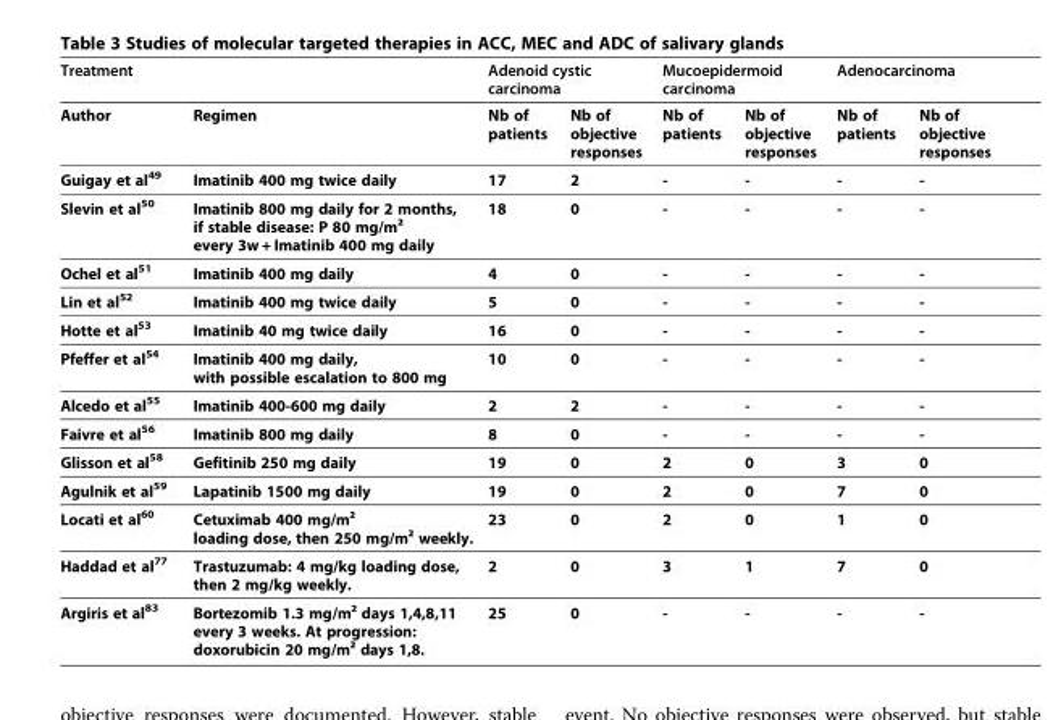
<table><thead><tr><td colspan="2">Treatment</td><td colspan="2">Adenoid cystic carcinoma</td><td colspan="2">Mucoepidermoid carcinoma</td><td colspan="2">Adenocarcinoma</td></tr><tr><td>Author</td><td>Regimen</td><td>Nb of patients</td><td>Nb of objective responses</td><td>Nb of patients</td><td>Nb of objective responses</td><td>Nb of patients</td><td>Nb of objective responses</td></tr></thead><tbody><tr><td>Guigay et al<sup>49</sup></td><td>Imatinib 400 mg twice daily</td><td>17</td><td>2</td><td>-</td><td>-</td><td>-</td><td>-</td></tr><tr><td>Slevin et al<sup>50</sup></td><td>Imatinib 800 mg daily for 2 months, if stable disease: P 80 mg/m² every 3w + Imatinib 400 mg daily</td><td>18</td><td>0</td><td>-</td><td>-</td><td>-</td><td>-</td></tr><tr><td>Ochel et al<sup>51</sup></td><td>Imatinib 400 mg daily</td><td>4</td><td>0</td><td>-</td><td>-</td><td>-</td><td>-</td></tr><tr><td>Lin et al<sup>52</sup></td><td>Imatinib 400 mg twice daily</td><td>5</td><td>0</td><td>-</td><td>-</td><td>-</td><td>-</td></tr><tr><td>Hotte et al<sup>53</sup></td><td>Imatinib 40 mg twice daily</td><td>16</td><td>0</td><td>-</td><td>-</td><td>-</td><td>-</td></tr><tr><td>Pfeffer et al<sup>54</sup></td><td>Imatinib 400 mg daily, with possible escalation to 800 mg</td><td>10</td><td>0</td><td>-</td><td>-</td><td>-</td><td>-</td></tr><tr><td>Alcedo et al<sup>55</sup></td><td>Imatinib 400-600 mg daily</td><td>2</td><td>2</td><td>-</td><td>-</td><td>-</td><td>-</td></tr><tr><td>Faivre et al<sup>56</sup></td><td>Imatinib 800 mg daily</td><td>8</td><td>0</td><td>-</td><td>-</td><td>-</td><td>-</td></tr><tr><td>Glisson et al<sup>58</sup></td><td>Gefitinib 250 mg daily</td><td>19</td><td>0</td><td>2</td><td>0</td><td>3</td><td>0</td></tr><tr><td>Agulnik et al<sup>59</sup></td><td>Lapatinib 1500 mg daily</td><td>19</td><td>0</td><td>2</td><td>0</td><td>7</td><td>0</td></tr><tr><td>Locati et al<sup>60</sup></td><td>Cetuximab 400 mg/m² loading dose, then 250 mg/m² weekly.</td><td>23</td><td>0</td><td>2</td><td>0</td><td>1</td><td>0</td></tr><tr><td>Haddad et al<sup>77</sup></td><td>Trastuzumab: 4 mg/kg loading dose, then 2 mg/kg weekly.</td><td>2</td><td>0</td><td>3</td><td>1</td><td>7</td><td>0</td></tr><tr><td>Argiris et al<sup>83</sup></td><td>Bortezomib 1.3 mg/m² days 1,4,8,11 every 3 weeks. At progression: doxorubicin 20 mg/m² days 1,8.</td><td>25</td><td>0</td><td>-</td><td>-</td><td>-</td><td>-</td></tr></tbody></table>